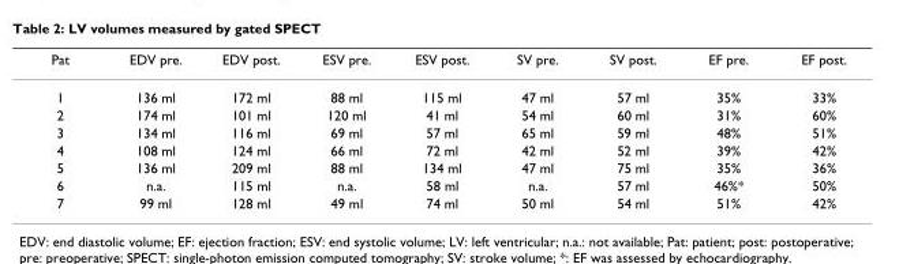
<table><thead><tr><td>Pat</td><td>EDV pre.</td><td>EDV post.</td><td>ESV pre.</td><td>ESV post.</td><td>SV pre.</td><td>SV post.</td><td>EF pre.</td><td>EF post.</td></tr></thead><tbody><tr><td>1</td><td>136 ml</td><td>172 ml</td><td>88 ml</td><td>115 ml</td><td>47 ml</td><td>57 ml</td><td>35%</td><td>33%</td></tr><tr><td>2</td><td>174 ml</td><td>101 ml</td><td>120 ml</td><td>41 ml</td><td>54 ml</td><td>60 ml</td><td>31%</td><td>60%</td></tr><tr><td>3</td><td>134 ml</td><td>116 ml</td><td>69 ml</td><td>57 ml</td><td>65 ml</td><td>59 ml</td><td>48%</td><td>51%</td></tr><tr><td>4</td><td>108 ml</td><td>124 ml</td><td>66 ml</td><td>72 ml</td><td>42 ml</td><td>52 ml</td><td>39%</td><td>42%</td></tr><tr><td>5</td><td>136 ml</td><td>209 ml</td><td>88 ml</td><td>134 ml</td><td>47 ml</td><td>75 ml</td><td>35%</td><td>36%</td></tr><tr><td>6</td><td>n.a.</td><td>115 ml</td><td>n.a.</td><td>58 ml</td><td>n.a.</td><td>57 ml</td><td>46%*</td><td>50%</td></tr><tr><td>7</td><td>99 ml</td><td>128 ml</td><td>49 ml</td><td>74 ml</td><td>50 ml</td><td>54 ml</td><td>51%</td><td>42%</td></tr></tbody></table>